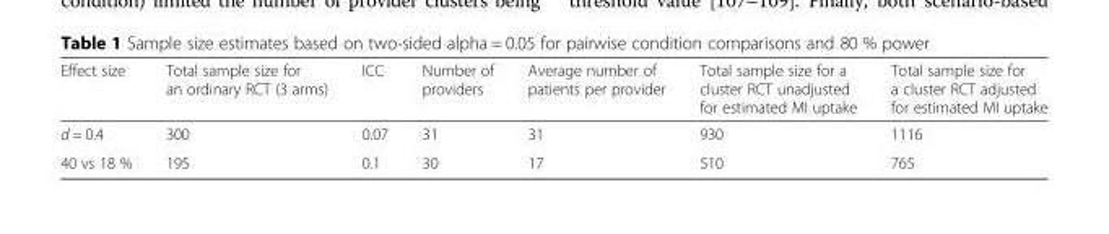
<table><thead><tr><td>Effect size</td><td>Total sample size for an ordinary RCT (3 arms)</td><td>ICC</td><td>Number of providers</td><td>Average number of patients per provider</td><td>Total sample size for a cluster RCT unadjusted for estimated MI uptake</td><td>Total sample size for a cluster RCT adjusted for estimated MI uptake</td></tr></thead><tbody><tr><td>d = 0.4</td><td>300</td><td>0.07</td><td>31</td><td>31</td><td>930</td><td>1116</td></tr><tr><td>40 vs 18 %</td><td>195</td><td>0.1</td><td>30</td><td>17</td><td>510</td><td>765</td></tr></tbody></table>